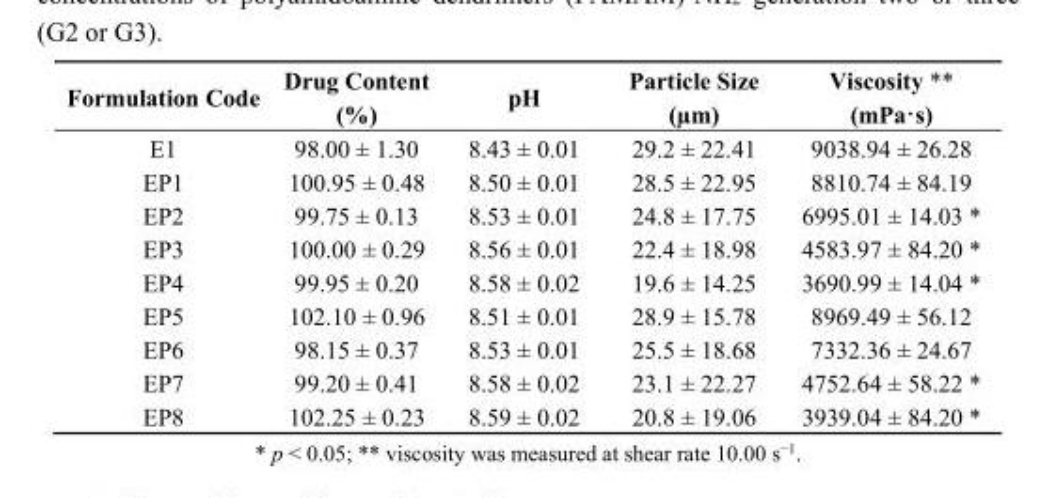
<table><thead><tr><td>Formulation Code</td><td>Drug Content (%)</td><td>pH</td><td>Particle Size (µm)</td><td>Viscosity ** (mPa·s)</td></tr></thead><tbody><tr><td>E1</td><td>98.00 ± 1.30</td><td>8.43 ± 0.01</td><td>29.2 ± 22.41</td><td>9038.94 ± 26.28</td></tr><tr><td>EP1</td><td>100.95 ± 0.48</td><td>8.50 ± 0.01</td><td>28.5 ± 22.95</td><td>8810.74 ± 84.19</td></tr><tr><td>EP2</td><td>99.75 ± 0.13</td><td>8.53 ± 0.01</td><td>24.8 ± 17.75</td><td>6995.01 ± 14.03 *</td></tr><tr><td>EP3</td><td>100.00 ± 0.29</td><td>8.56 ± 0.01</td><td>22.4 ± 18.98</td><td>4583.97 ± 84.20 *</td></tr><tr><td>EP4</td><td>99.95 ± 0.20</td><td>8.58 ± 0.02</td><td>19.6 ± 14.25</td><td>3690.99 ± 14.04 *</td></tr><tr><td>EP5</td><td>102.10 ± 0.96</td><td>8.51 ± 0.01</td><td>28.9 ± 15.78</td><td>8969.49 ± 56.12</td></tr><tr><td>EP6</td><td>98.15 ± 0.37</td><td>8.53 ± 0.01</td><td>25.5 ± 18.68</td><td>7332.36 ± 24.67</td></tr><tr><td>EP7</td><td>99.20 ± 0.41</td><td>8.58 ± 0.02</td><td>23.1 ± 22.27</td><td>4752.64 ± 58.22 *</td></tr><tr><td>EP8</td><td>102.25 ± 0.23</td><td>8.59 ± 0.02</td><td>20.8 ± 19.06</td><td>3939.04 ± 84.20 *</td></tr></tbody></table>